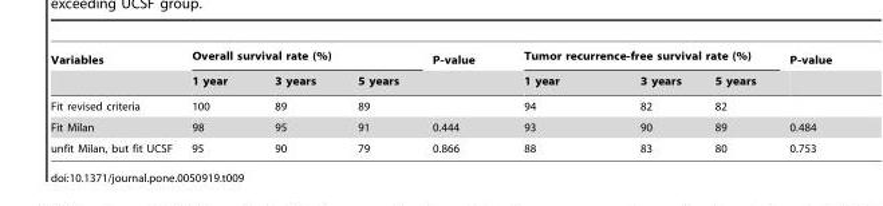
<table><thead><tr><td rowspan="2">Variables</td><td colspan="3">Overall survival rate (%)</td><td rowspan="2">P-value</td><td colspan="3">Tumor recurrence-free survival rate (%)</td><td rowspan="2">P-value</td></tr><tr><td>1 year</td><td>3 years</td><td>5 years</td><td>1 year</td><td>3 years</td><td>5 years</td></tr></thead><tbody><tr><td>Fit revised criteria</td><td>100</td><td>89</td><td>89</td><td></td><td>94</td><td>82</td><td>82</td><td></td></tr><tr><td>Fit Milan</td><td>98</td><td>95</td><td>91</td><td>0.444</td><td>93</td><td>90</td><td>89</td><td>0.484</td></tr><tr><td>unfit Milan, but fit UCSF</td><td>95</td><td>90</td><td>79</td><td>0.866</td><td>88</td><td>83</td><td>80</td><td>0.753</td></tr></tbody></table>